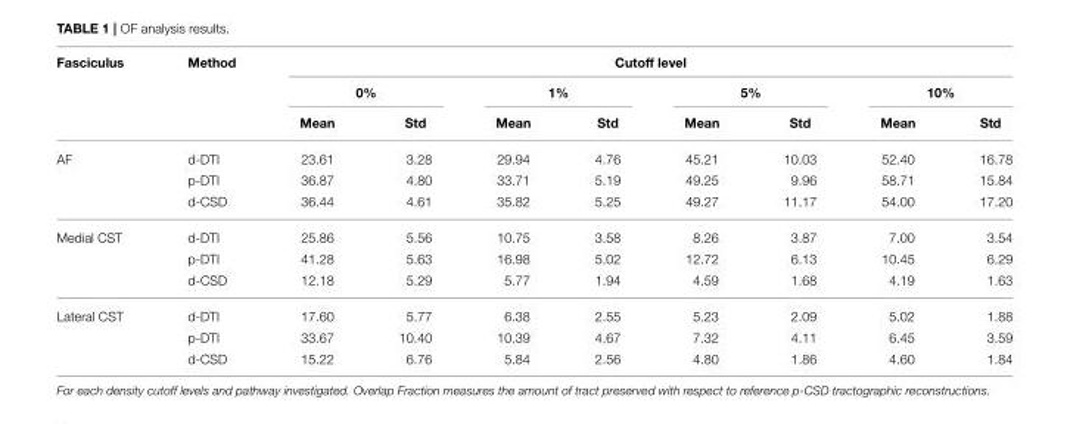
<table><thead><tr><td rowspan="3">Fasciculus</td><td rowspan="3">Method</td><td colspan="8">Cutoff level</td></tr><tr><td colspan="2">0%</td><td colspan="2">1%</td><td colspan="2">5%</td><td colspan="2">10%</td></tr><tr><td>Mean</td><td>Std</td><td>Mean</td><td>Std</td><td>Mean</td><td>Std</td><td>Mean</td><td>Std</td></tr></thead><tbody><tr><td rowspan="3">AF</td><td>d-DTI</td><td>23.61</td><td>3.28</td><td>29.94</td><td>4.76</td><td>45.21</td><td>10.03</td><td>52.40</td><td>16.78</td></tr><tr><td>p-DTI</td><td>36.87</td><td>4.80</td><td>33.71</td><td>5.19</td><td>49.25</td><td>9.96</td><td>58.71</td><td>15.84</td></tr><tr><td>d-CSD</td><td>36.44</td><td>4.61</td><td>35.82</td><td>5.25</td><td>49.27</td><td>11.17</td><td>54.00</td><td>17.20</td></tr><tr><td rowspan="3">Medial CST</td><td>d-DTI</td><td>25.86</td><td>5.56</td><td>10.75</td><td>3.58</td><td>8.26</td><td>3.87</td><td>7.00</td><td>3.54</td></tr><tr><td>p-DTI</td><td>41.28</td><td>5.63</td><td>16.98</td><td>5.02</td><td>12.72</td><td>6.13</td><td>10.45</td><td>6.29</td></tr><tr><td>d-CSD</td><td>12.18</td><td>5.29</td><td>5.77</td><td>1.94</td><td>4.59</td><td>1.68</td><td>4.19</td><td>1.63</td></tr><tr><td rowspan="3">Lateral CST</td><td>d-DTI</td><td>17.60</td><td>5.77</td><td>6.38</td><td>2.55</td><td>5.23</td><td>2.09</td><td>5.02</td><td>1.88</td></tr><tr><td>p-DTI</td><td>33.67</td><td>10.40</td><td>10.39</td><td>4.67</td><td>7.32</td><td>4.11</td><td>6.45</td><td>3.59</td></tr><tr><td>d-CSD</td><td>15.22</td><td>6.76</td><td>5.84</td><td>2.56</td><td>4.80</td><td>1.86</td><td>4.60</td><td>1.84</td></tr></tbody></table>